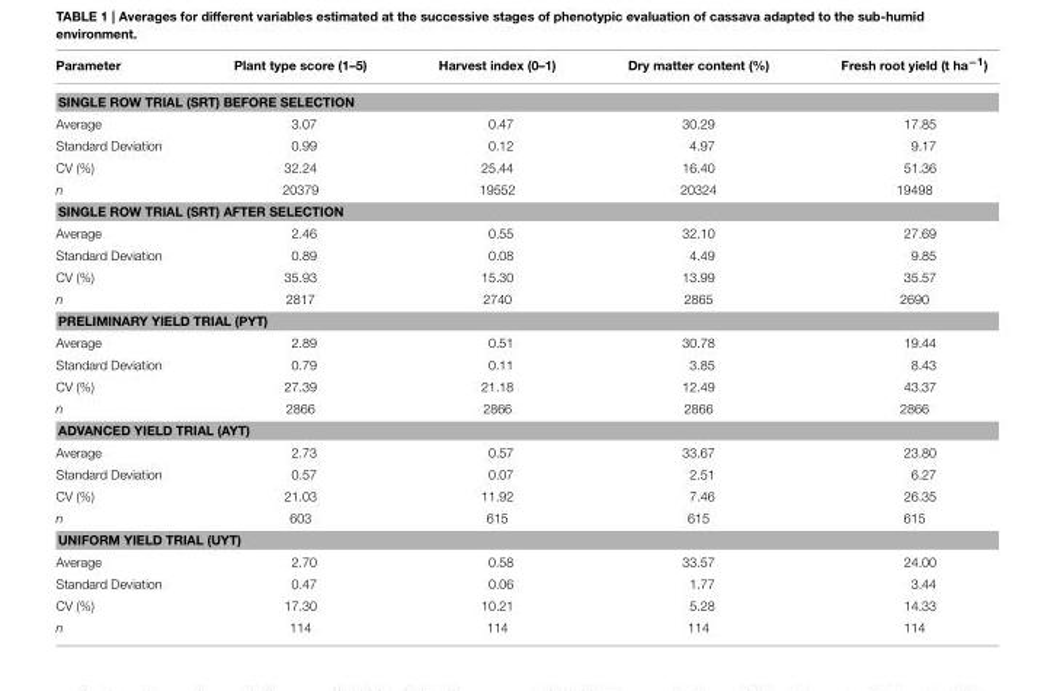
<table><thead><tr><td>Parameter</td><td>Plant type score (1–5)</td><td>Harvest index (0–1)</td><td>Dry matter content (%)</td><td>Fresh root yield (t ha<sup>−1</sup>)</td></tr></thead><tbody><tr><td colspan="5">SINGLE ROW TRIAL (SRT) BEFORE SELECTION</td></tr><tr><td>Average</td><td>3.07</td><td>0.47</td><td>30.29</td><td>17.85</td></tr><tr><td>Standard Deviation</td><td>0.99</td><td>0.12</td><td>4.97</td><td>9.17</td></tr><tr><td>CV (%)</td><td>32.24</td><td>25.44</td><td>16.40</td><td>51.36</td></tr><tr><td>n</td><td>20379</td><td>19552</td><td>20324</td><td>19498</td></tr><tr><td colspan="5">SINGLE ROW TRIAL (SRT) AFTER SELECTION</td></tr><tr><td>Average</td><td>2.46</td><td>0.55</td><td>32.10</td><td>27.69</td></tr><tr><td>Standard Deviation</td><td>0.89</td><td>0.08</td><td>4.49</td><td>9.85</td></tr><tr><td>CV (%)</td><td>35.93</td><td>15.30</td><td>13.99</td><td>35.57</td></tr><tr><td>n</td><td>2817</td><td>2740</td><td>2865</td><td>2690</td></tr><tr><td colspan="5">PRELIMINARY YIELD TRIAL (PYT)</td></tr><tr><td>Average</td><td>2.89</td><td>0.51</td><td>30.78</td><td>19.44</td></tr><tr><td>Standard Deviation</td><td>0.79</td><td>0.11</td><td>3.85</td><td>8.43</td></tr><tr><td>CV (%)</td><td>27.39</td><td>21.18</td><td>12.49</td><td>43.37</td></tr><tr><td>n</td><td>2866</td><td>2866</td><td>2866</td><td>2866</td></tr><tr><td colspan="5">ADVANCED YIELD TRIAL (AYT)</td></tr><tr><td>Average</td><td>2.73</td><td>0.57</td><td>33.67</td><td>23.80</td></tr><tr><td>Standard Deviation</td><td>0.57</td><td>0.07</td><td>2.51</td><td>6.27</td></tr><tr><td>CV (%)</td><td>21.03</td><td>11.92</td><td>7.46</td><td>26.35</td></tr><tr><td>n</td><td>603</td><td>615</td><td>615</td><td>615</td></tr><tr><td colspan="5">UNIFORM YIELD TRIAL (UYT)</td></tr><tr><td>Average</td><td>2.70</td><td>0.58</td><td>33.57</td><td>24.00</td></tr><tr><td>Standard Deviation</td><td>0.47</td><td>0.06</td><td>1.77</td><td>3.44</td></tr><tr><td>CV (%)</td><td>17.30</td><td>10.21</td><td>5.28</td><td>14.33</td></tr><tr><td>n</td><td>114</td><td>114</td><td>114</td><td>114</td></tr></tbody></table>